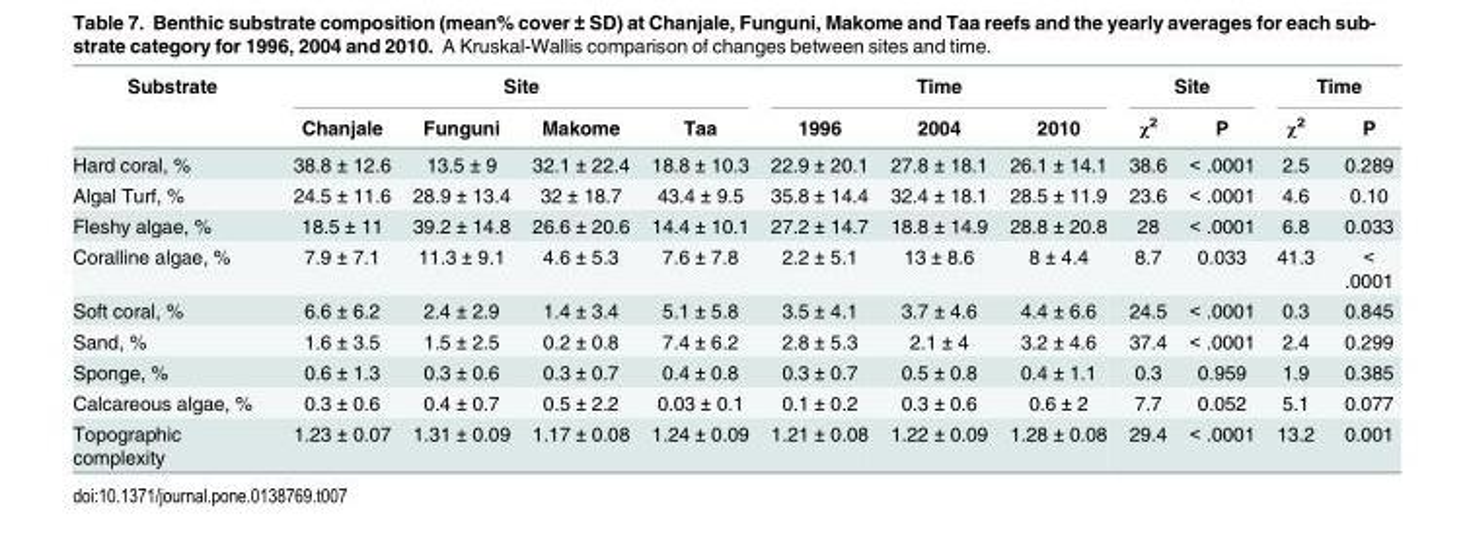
<table><thead><tr><td rowspan="2">Substrate</td><td colspan="4">Site</td><td colspan="3">Time</td><td colspan="2">Site</td><td colspan="2">Time</td></tr><tr><td>Chanjale</td><td>Funguni</td><td>Makome</td><td>Taa</td><td>1996</td><td>2004</td><td>2010</td><td>χ<sup>2</sup></td><td>P</td><td>χ<sup>2</sup></td><td>P</td></tr></thead><tbody><tr><td>Hard coral, %</td><td>38.8 ± 12.6</td><td>13.5 ± 9</td><td>32.1 ± 22.4</td><td>18.8 ± 10.3</td><td>22.9 ± 20.1</td><td>27.8 ± 18.1</td><td>26.1 ± 14.1</td><td>38.6</td><td>&lt; .0001</td><td>2.5</td><td>0.289</td></tr><tr><td>Algal Turf, %</td><td>24.5 ± 11.6</td><td>28.9 ± 13.4</td><td>32 ± 18.7</td><td>43.4 ± 9.5</td><td>35.8 ± 14.4</td><td>32.4 ± 18.1</td><td>28.5 ± 11.9</td><td>23.6</td><td>&lt; .0001</td><td>4.6</td><td>0.10</td></tr><tr><td>Fleshy algae, %</td><td>18.5 ± 11</td><td>39.2 ± 14.8</td><td>26.6 ± 20.6</td><td>14.4 ± 10.1</td><td>27.2 ± 14.7</td><td>18.8 ± 14.9</td><td>28.8 ± 20.8</td><td>28</td><td>&lt; .0001</td><td>6.8</td><td>0.033</td></tr><tr><td>Coralline algae, %</td><td>7.9 ± 7.1</td><td>11.3 ± 9.1</td><td>4.6 ± 5.3</td><td>7.6 ± 7.8</td><td>2.2 ± 5.1</td><td>13 ± 8.6</td><td>8 ± 4.4</td><td>8.7</td><td>0.033</td><td>41.3</td><td>&lt; .0001</td></tr><tr><td>Soft coral, %</td><td>6.6 ± 6.2</td><td>2.4 ± 2.9</td><td>1.4 ± 3.4</td><td>5.1 ± 5.8</td><td>3.5 ± 4.1</td><td>3.7 ± 4.6</td><td>4.4 ± 6.6</td><td>24.5</td><td>&lt; .0001</td><td>0.3</td><td>0.845</td></tr><tr><td>Sand, %</td><td>1.6 ± 3.5</td><td>1.5 ± 2.5</td><td>0.2 ± 0.8</td><td>7.4 ± 6.2</td><td>2.8 ± 5.3</td><td>2.1 ± 4</td><td>3.2 ± 4.6</td><td>37.4</td><td>&lt; .0001</td><td>2.4</td><td>0.299</td></tr><tr><td>Sponge, %</td><td>0.6 ± 1.3</td><td>0.3 ± 0.6</td><td>0.3 ± 0.7</td><td>0.4 ± 0.8</td><td>0.3 ± 0.7</td><td>0.5 ± 0.8</td><td>0.4 ± 1.1</td><td>0.3</td><td>0.959</td><td>1.9</td><td>0.385</td></tr><tr><td>Calcareous algae, %</td><td>0.3 ± 0.6</td><td>0.4 ± 0.7</td><td>0.5 ± 2.2</td><td>0.03 ± 0.1</td><td>0.1 ± 0.2</td><td>0.3 ± 0.6</td><td>0.6 ± 2</td><td>7.7</td><td>0.052</td><td>5.1</td><td>0.077</td></tr><tr><td>Topographic complexity</td><td>1.23 ± 0.07</td><td>1.31 ± 0.09</td><td>1.17 ± 0.08</td><td>1.24 ± 0.09</td><td>1.21 ± 0.08</td><td>1.22 ± 0.09</td><td>1.28 ± 0.08</td><td>29.4</td><td>&lt; .0001</td><td>13.2</td><td>0.001</td></tr></tbody></table>